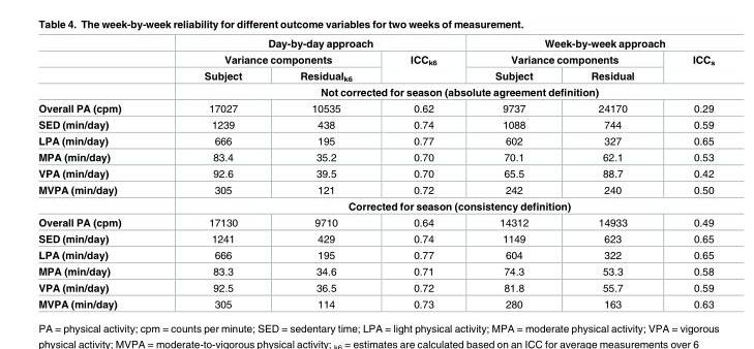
<table><thead><tr><td rowspan="3"></td><td colspan="3">Day-by-day approach</td><td colspan="3">Week-by-week approach</td></tr><tr><td colspan="2">Variance components</td><td rowspan="2">ICC<sub>k6</sub></td><td colspan="2">Variance components</td><td rowspan="2">ICC<sub>s</sub></td></tr><tr><td>Subject</td><td>Residual<sub>k6</sub></td><td>Subject</td><td>Residual</td></tr></thead><tbody><tr><td></td><td colspan="6">Not corrected for season (absolute agreement definition)</td></tr><tr><td>Overall PA (cpm)</td><td>17027</td><td>10535</td><td>0.62</td><td>9737</td><td>24170</td><td>0.29</td></tr><tr><td>SED (min/day)</td><td>1239</td><td>438</td><td>0.74</td><td>1088</td><td>744</td><td>0.59</td></tr><tr><td>LPA (min/day)</td><td>666</td><td>195</td><td>0.77</td><td>602</td><td>327</td><td>0.65</td></tr><tr><td>MPA (min/day)</td><td>83.4</td><td>35.2</td><td>0.70</td><td>70.1</td><td>62.1</td><td>0.53</td></tr><tr><td>VPA (min/day)</td><td>92.6</td><td>39.5</td><td>0.70</td><td>65.5</td><td>88.7</td><td>0.42</td></tr><tr><td rowspan="2">MVPA (min/day)</td><td>305</td><td>121</td><td>0.72</td><td>242</td><td>240</td><td>0.50</td></tr><tr><td colspan="6">Corrected for season (consistency definition)</td></tr><tr><td>Overall PA (cpm)</td><td>17130</td><td>9710</td><td>0.64</td><td>14312</td><td>14933</td><td>0.49</td></tr><tr><td>SED (min/day)</td><td>1241</td><td>429</td><td>0.74</td><td>1149</td><td>623</td><td>0.65</td></tr><tr><td>LPA (min/day)</td><td>666</td><td>195</td><td>0.77</td><td>604</td><td>322</td><td>0.65</td></tr><tr><td>MPA (min/day)</td><td>83.3</td><td>34.6</td><td>0.71</td><td>74.3</td><td>53.3</td><td>0.58</td></tr><tr><td>VPA (min/day)</td><td>92.5</td><td>36.5</td><td>0.72</td><td>81.8</td><td>55.7</td><td>0.59</td></tr><tr><td>MVPA (min/day)</td><td>305</td><td>114</td><td>0.73</td><td>280</td><td>163</td><td>0.63</td></tr></tbody></table>